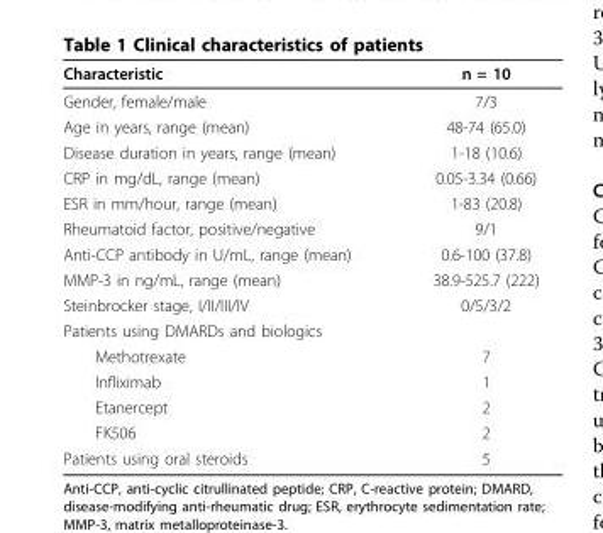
<table><thead><tr><td>Characteristic</td><td>n = 10</td></tr></thead><tbody><tr><td>Gender, female/male</td><td>7/3</td></tr><tr><td>Age in years, range (mean)</td><td>48-74 (65.0)</td></tr><tr><td>Disease duration in years, range (mean)</td><td>1-18 (10.6)</td></tr><tr><td>CRP in mg/dL, range (mean)</td><td>0.05-3.34 (0.66)</td></tr><tr><td>ESR in mm/hour, range (mean)</td><td>1-83 (20.8)</td></tr><tr><td>Rheumatoid factor, positive/negative</td><td>9/1</td></tr><tr><td>Anti-CCP antibody in U/mL, range (mean)</td><td>0.6-100 (37.8)</td></tr><tr><td>MMP-3 in ng/mL, range (mean)</td><td>38.9-525.7 (222)</td></tr><tr><td>Steinbrocker stage, I/II/III/IV</td><td>0/5/3/2</td></tr><tr><td colspan="2">Patients using DMARDs and biologics</td></tr><tr><td>Methotrexate</td><td>7</td></tr><tr><td>Infliximab</td><td>1</td></tr><tr><td>Etanercept</td><td>2</td></tr><tr><td>FK506</td><td>2</td></tr><tr><td>Patients using oral steroids</td><td>5</td></tr></tbody></table>